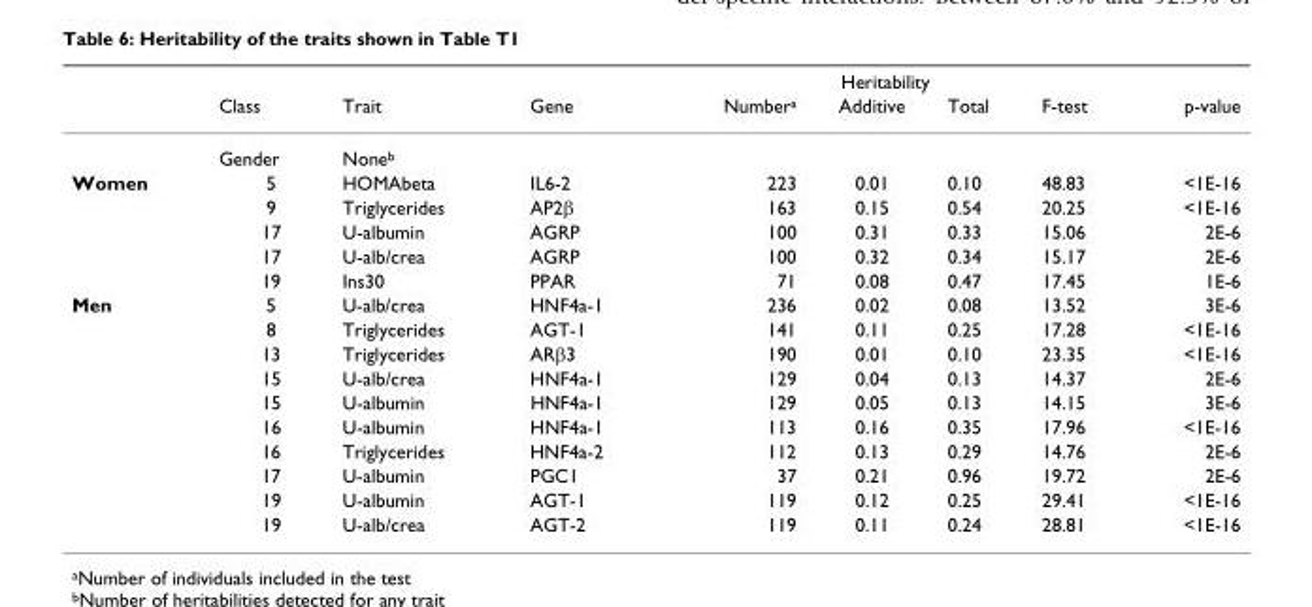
<table><thead><tr><td rowspan="2"></td><td rowspan="2">Class</td><td rowspan="2">Trait</td><td colspan="6">Heritability</td></tr><tr><td>Gene</td><td>Number<sup>a</sup></td><td>Additive</td><td>Total</td><td>F-test</td><td>p-value</td></tr></thead><tbody><tr><td></td><td>Gender</td><td>None<sup>b</sup></td><td></td><td></td><td></td><td></td><td></td><td></td></tr><tr><td rowspan="5">Women</td><td>5</td><td>HOMAbeta</td><td>IL6-2</td><td>223</td><td>0.01</td><td>0.10</td><td>48.83</td><td>&lt;1E-16</td></tr><tr><td>9</td><td>Triglycerides</td><td>AP2β</td><td>163</td><td>0.15</td><td>0.54</td><td>20.25</td><td>&lt;1E-16</td></tr><tr><td>17</td><td>U-albumin</td><td>AGRP</td><td>100</td><td>0.31</td><td>0.33</td><td>15.06</td><td>2E-6</td></tr><tr><td>17</td><td>U-alb/crea</td><td>AGRP</td><td>100</td><td>0.32</td><td>0.34</td><td>15.17</td><td>2E-6</td></tr><tr><td>19</td><td>Ins30</td><td>PPAR</td><td>71</td><td>0.08</td><td>0.47</td><td>17.45</td><td>1E-6</td></tr><tr><td rowspan="10">Men</td><td>5</td><td>U-alb/crea</td><td>HNF4a-1</td><td>236</td><td>0.02</td><td>0.08</td><td>13.52</td><td>3E-6</td></tr><tr><td>8</td><td>Triglycerides</td><td>AGT-1</td><td>141</td><td>0.11</td><td>0.25</td><td>17.28</td><td>&lt;1E-16</td></tr><tr><td>13</td><td>Triglycerides</td><td>ARβ3</td><td>190</td><td>0.01</td><td>0.10</td><td>23.35</td><td>&lt;1E-16</td></tr><tr><td>15</td><td>U-alb/crea</td><td>HNF4a-1</td><td>129</td><td>0.04</td><td>0.13</td><td>14.37</td><td>2E-6</td></tr><tr><td>15</td><td>U-albumin</td><td>HNF4a-1</td><td>129</td><td>0.05</td><td>0.13</td><td>14.15</td><td>3E-6</td></tr><tr><td>16</td><td>U-albumin</td><td>HNF4a-1</td><td>113</td><td>0.16</td><td>0.35</td><td>17.96</td><td>&lt;1E-16</td></tr><tr><td>16</td><td>Triglycerides</td><td>HNF4a-2</td><td>112</td><td>0.13</td><td>0.29</td><td>14.76</td><td>2E-6</td></tr><tr><td>17</td><td>U-albumin</td><td>PGC1</td><td>37</td><td>0.21</td><td>0.96</td><td>19.72</td><td>2E-6</td></tr><tr><td>19</td><td>U-albumin</td><td>AGT-1</td><td>119</td><td>0.12</td><td>0.25</td><td>29.41</td><td>&lt;1E-16</td></tr><tr><td>19</td><td>U-alb/crea</td><td>AGT-2</td><td>119</td><td>0.11</td><td>0.24</td><td>28.81</td><td>&lt;1E-16</td></tr></tbody></table>